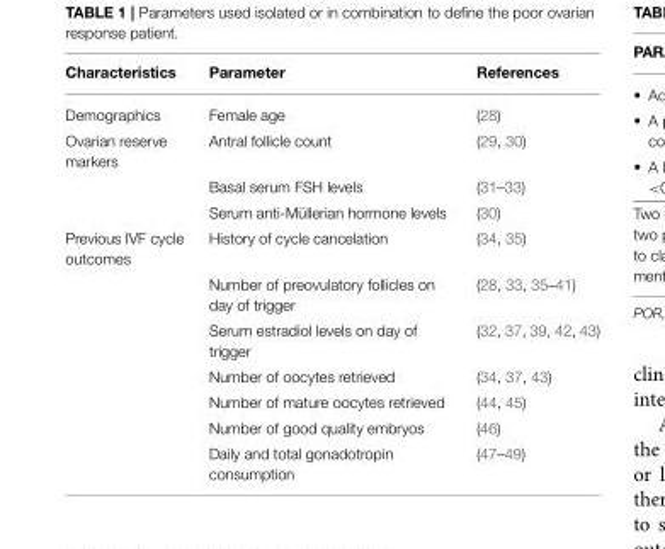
<table><thead><tr><td>Characteristics</td><td>Parameter</td><td>References</td></tr></thead><tbody><tr><td>Demographics</td><td>Female age</td><td>(28)</td></tr><tr><td rowspan="3">Ovarian reserve markers</td><td>Antral follicle count</td><td>(29, 30)</td></tr><tr><td>Basal serum FSH levels</td><td>(31–33)</td></tr><tr><td>Serum anti-Müllerian hormone levels</td><td>(30)</td></tr><tr><td rowspan="7">Previous IVF cycle outcomes</td><td>History of cycle cancelation</td><td>(34, 35)</td></tr><tr><td>Number of preovulatory follicles on day of trigger</td><td>(28, 33, 35–41)</td></tr><tr><td>Serum estradiol levels on day of trigger</td><td>(32, 37, 39, 42, 43)</td></tr><tr><td>Number of oocytes retrieved</td><td>(34, 37, 43)</td></tr><tr><td>Number of mature oocytes retrieved</td><td>(44, 45)</td></tr><tr><td>Number of good quality embryos</td><td>(46)</td></tr><tr><td>Daily and total gonadotropin consumption</td><td>(47–49)</td></tr></tbody></table>